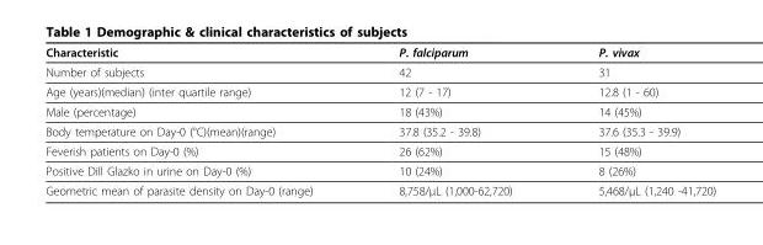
<table><thead><tr><td>Characteristic</td><td>P. falciparum</td><td>P. vivax</td></tr></thead><tbody><tr><td>Number of subjects</td><td>42</td><td>31</td></tr><tr><td>Age (years)(median) (inter quartile range)</td><td>12 (7 - 17)</td><td>12.8 (1 - 60)</td></tr><tr><td>Male (percentage)</td><td>18 (43%)</td><td>14 (45%)</td></tr><tr><td>Body temperature on Day-0 (°C)(mean)(range)</td><td>37.8 (35.2 - 39.8)</td><td>37.6 (35.3 - 39.9)</td></tr><tr><td>Feverish patients on Day-0 (%)</td><td>26 (62%)</td><td>15 (48%)</td></tr><tr><td>Positive Dill Glazko in urine on Day-0 (%)</td><td>10 (24%)</td><td>8 (26%)</td></tr><tr><td>Geometric mean of parasite density on Day-0 (range)</td><td>8,758/μL (1,000-62,720)</td><td>5,468/μL (1,240 -41,720)</td></tr></tbody></table>